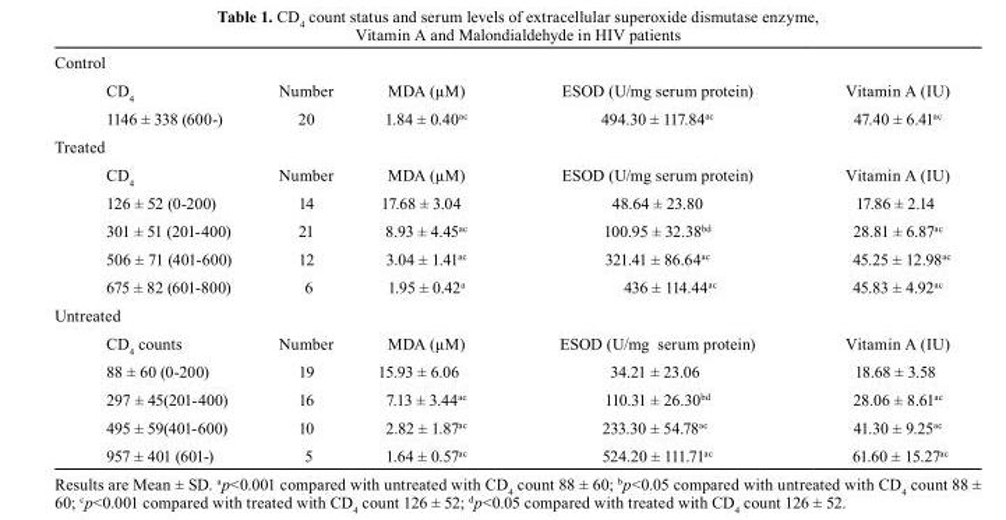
<table><tbody><tr><td colspan="5">Control</td></tr><tr><td>CD<sub>4</sub></td><td>Number</td><td>MDA (μM)</td><td>ESOD (U/mg serum protein)</td><td>Vitamin A (IU)</td></tr><tr><td>1146 ± 338 (600-)</td><td>20</td><td>1.84 ± 0.40<sup>ac</sup></td><td>494.30 ± 117.84<sup>ac</sup></td><td>47.40 ± 6.41<sup>ac</sup></td></tr><tr><td colspan="5">Treated</td></tr><tr><td>CD<sub>4</sub></td><td>Number</td><td>MDA (μM)</td><td>ESOD (U/mg serum protein)</td><td>Vitamin A (IU)</td></tr><tr><td>126 ± 52 (0-200)</td><td>14</td><td>17.68 ± 3.04</td><td>48.64 ± 23.80</td><td>17.86 ± 2.14</td></tr><tr><td>301 ± 51 (201-400)</td><td>21</td><td>8.93 ± 4.45<sup>ac</sup></td><td>100.95 ± 32.38<sup>bd</sup></td><td>28.81 ± 6.87<sup>ac</sup></td></tr><tr><td>506 ± 71 (401-600)</td><td>12</td><td>3.04 ± 1.41<sup>ac</sup></td><td>321.41 ± 86.64<sup>ac</sup></td><td>45.25 ± 12.98<sup>ac</sup></td></tr><tr><td>675 ± 82 (601-800)</td><td>6</td><td>1.95 ± 0.42<sup>a</sup></td><td>436 ± 114.44<sup>ac</sup></td><td>45.83 ± 4.92<sup>ac</sup></td></tr><tr><td colspan="5">Untreated</td></tr><tr><td>CD<sub>4</sub> counts</td><td>Number</td><td>MDA (μM)</td><td>ESOD (U/mg serum protein)</td><td>Vitamin A (IU)</td></tr><tr><td>88 ± 60 (0-200)</td><td>19</td><td>15.93 ± 6.06</td><td>34.21 ± 23.06</td><td>18.68 ± 3.58</td></tr><tr><td>297 ± 45(201-400)</td><td>16</td><td>7.13 ± 3.44<sup>ac</sup></td><td>110.31 ± 26.30<sup>bd</sup></td><td>28.06 ± 8.61<sup>ac</sup></td></tr><tr><td>495 ± 59(401-600)</td><td>10</td><td>2.82 ± 1.87<sup>ac</sup></td><td>233.30 ± 54.78<sup>ac</sup></td><td>41.30 ± 9.25<sup>ac</sup></td></tr><tr><td>957 ± 401 (601-)</td><td>5</td><td>1.64 ± 0.57<sup>ac</sup></td><td>524.20 ± 111.71<sup>ac</sup></td><td>61.60 ± 15.27<sup>ac</sup></td></tr></tbody></table>